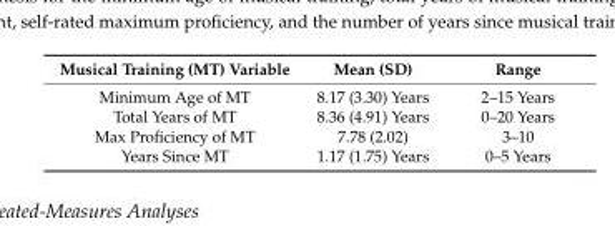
<table><thead><tr><td>Musical Training (MT) Variable</td><td>Mean (SD)</td><td>Range</td></tr></thead><tbody><tr><td>Minimum Age of MT</td><td>8.17 (3.30) Years</td><td>2–15 Years</td></tr><tr><td>Total Years of MT</td><td>8.36 (4.91) Years</td><td>0–20 Years</td></tr><tr><td>Max Proficiency of MT</td><td>7.78 (2.02)</td><td>3–10</td></tr><tr><td>Years Since MT</td><td>1.17 (1.75) Years</td><td>0–5 Years</td></tr></tbody></table>